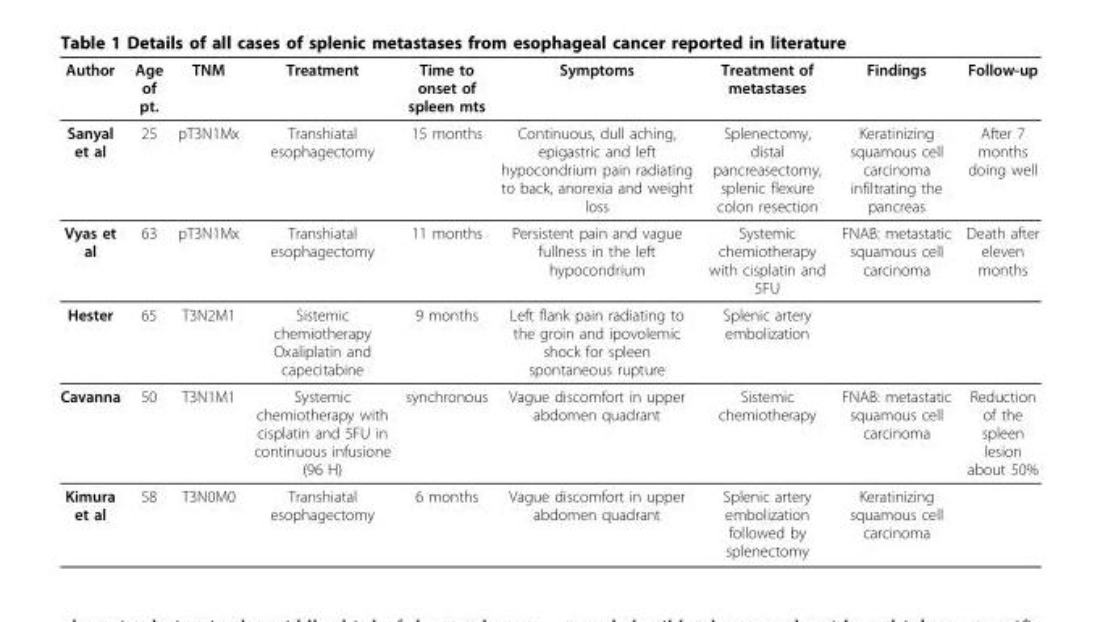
<table><thead><tr><td>Author</td><td>Age of pt.</td><td>TNM</td><td>Treatment</td><td>Time to onset of spleen mts</td><td>Symptoms</td><td>Treatment of metastases</td><td>Findings</td><td>Follow-up</td></tr></thead><tbody><tr><td>Sanyal et al</td><td>25</td><td>pT3N1Mx</td><td>Transhiatal esophagectomy</td><td>15 months</td><td>Continuous, dull aching, epigastric and left hypocondrium pain radiating to back, anorexia and weight loss</td><td>Splenectomy, distal pancreasectomy, splenic flexure colon resection</td><td>Keratinizing squamous cell carcinoma infiltrating the pancreas</td><td>After 7 months doing well</td></tr><tr><td>Vyas et al</td><td>63</td><td>pT3N1Mx</td><td>Transhiatal esophagectomy</td><td>11 months</td><td>Persistent pain and vague fullness in the left hypocondrium</td><td>Systemic chemiotherapy with cisplatin and 5FU</td><td>FNAB: metastatic squamous cell carcinoma</td><td>Death after eleven months</td></tr><tr><td>Hester</td><td>65</td><td>T3N2M1</td><td>Sistemic chemiotherapy Oxaliplatin and capecitabine</td><td>9 months</td><td>Left flank pain radiating to the groin and ipovolemic shock for spleen spontaneous rupture</td><td>Splenic artery embolization</td><td></td><td></td></tr><tr><td>Cavanna</td><td>50</td><td>T3N1M1</td><td>Systemic chemiotherapy with cisplatin and 5FU in continuous infusione (96 H)</td><td>synchronous</td><td>Vague discomfort in upper abdomen quadrant</td><td>Sistemic chemiotherapy</td><td>FNAB: metastatic squamous cell carcinoma</td><td>Reduction of the spleen lesion about 50%</td></tr><tr><td>Kimura et al</td><td>58</td><td>T3N0M0</td><td>Transhiatal esophagectomy</td><td>6 months</td><td>Vague discomfort in upper abdomen quadrant</td><td>Splenic artery embolization followed by splenectomy</td><td>Keratinizing squamous cell carcinoma</td><td></td></tr></tbody></table>